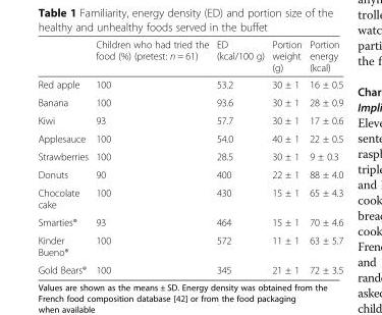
<table><thead><tr><td></td><td>Children who had tried the food (%) (pretest: n = 61)</td><td>ED (kcal/100 g)</td><td>Portion weight (g)</td><td>Portion energy (kcal)</td></tr></thead><tbody><tr><td>Red apple</td><td>100</td><td>53.2</td><td>30 ± 1</td><td>16 ± 0.5</td></tr><tr><td>Banana</td><td>100</td><td>93.6</td><td>30 ± 1</td><td>28 ± 0.9</td></tr><tr><td>Kiwi</td><td>93</td><td>57.7</td><td>30 ± 1</td><td>17 ± 0.6</td></tr><tr><td>Applesauce</td><td>100</td><td>54.0</td><td>40 ± 1</td><td>22 ± 0.5</td></tr><tr><td>Strawberries</td><td>100</td><td>28.5</td><td>30 ± 1</td><td>9 ± 0.3</td></tr><tr><td>Donuts</td><td>90</td><td>400</td><td>22 ± 1</td><td>88 ± 4.0</td></tr><tr><td>Chocolate cake</td><td>100</td><td>430</td><td>15 ± 1</td><td>65 ± 4.3</td></tr><tr><td>Smarties®</td><td>93</td><td>464</td><td>15 ± 1</td><td>70 ± 4.6</td></tr><tr><td>Kinder Bueno®</td><td>100</td><td>572</td><td>11 ± 1</td><td>63 ± 5.7</td></tr><tr><td>Gold Bears®</td><td>100</td><td>345</td><td>21 ± 1</td><td>72 ± 3.5</td></tr></tbody></table>